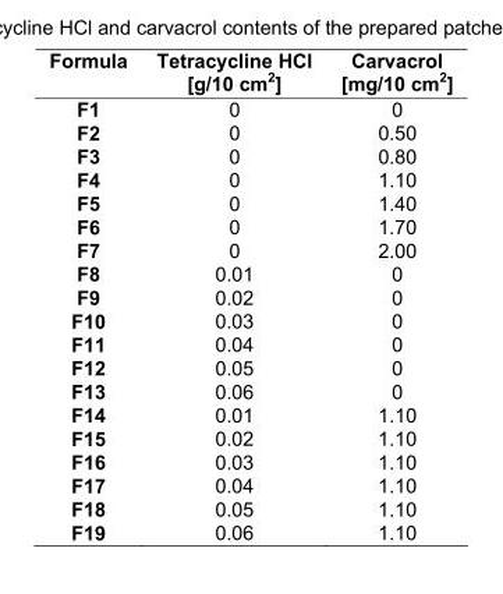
<table><thead><tr><td>Formula</td><td>Tetracycline HCl [g/10 cm<sup>2</sup>]</td><td>Carvacrol [mg/10 cm<sup>2</sup>]</td></tr></thead><tbody><tr><td>F1</td><td>0</td><td>0</td></tr><tr><td>F2</td><td>0</td><td>0.50</td></tr><tr><td>F3</td><td>0</td><td>0.80</td></tr><tr><td>F4</td><td>0</td><td>1.10</td></tr><tr><td>F5</td><td>0</td><td>1.40</td></tr><tr><td>F6</td><td>0</td><td>1.70</td></tr><tr><td>F7</td><td>0</td><td>2.00</td></tr><tr><td>F8</td><td>0.01</td><td>0</td></tr><tr><td>F9</td><td>0.02</td><td>0</td></tr><tr><td>F10</td><td>0.03</td><td>0</td></tr><tr><td>F11</td><td>0.04</td><td>0</td></tr><tr><td>F12</td><td>0.05</td><td>0</td></tr><tr><td>F13</td><td>0.06</td><td>0</td></tr><tr><td>F14</td><td>0.01</td><td>1.10</td></tr><tr><td>F15</td><td>0.02</td><td>1.10</td></tr><tr><td>F16</td><td>0.03</td><td>1.10</td></tr><tr><td>F17</td><td>0.04</td><td>1.10</td></tr><tr><td>F18</td><td>0.05</td><td>1.10</td></tr><tr><td>F19</td><td>0.06</td><td>1.10</td></tr></tbody></table>